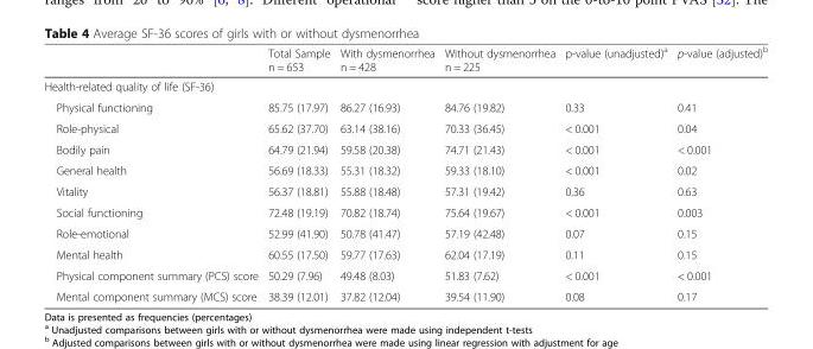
<table><thead><tr><td></td><td>Total Sample n = 653</td><td>With dysmenorrhea n = 428</td><td>Without dysmenorrhea n = 225</td><td>p-value (unadjusted)<sup>a</sup></td><td>p-value (adjusted)<sup>b</sup></td></tr></thead><tbody><tr><td colspan="6">Health-related quality of life (SF-36)</td></tr><tr><td>Physical functioning</td><td>85.75 (17.97)</td><td>86.27 (16.93)</td><td>84.76 (19.82)</td><td>0.33</td><td>0.41</td></tr><tr><td>Role-physical</td><td>65.62 (37.70)</td><td>63.14 (38.16)</td><td>70.33 (36.45)</td><td>&lt; 0.001</td><td>0.04</td></tr><tr><td>Bodily pain</td><td>64.79 (21.94)</td><td>59.58 (20.38)</td><td>74.71 (21.43)</td><td>&lt; 0.001</td><td>&lt; 0.001</td></tr><tr><td>General health</td><td>56.69 (18.33)</td><td>55.31 (18.32)</td><td>59.33 (18.10)</td><td>&lt; 0.001</td><td>0.02</td></tr><tr><td>Vitality</td><td>56.37 (18.81)</td><td>55.88 (18.48)</td><td>57.31 (19.42)</td><td>0.36</td><td>0.63</td></tr><tr><td>Social functioning</td><td>72.48 (19.19)</td><td>70.82 (18.74)</td><td>75.64 (19.67)</td><td>&lt; 0.001</td><td>0.003</td></tr><tr><td>Role-emotional</td><td>52.99 (41.90)</td><td>50.78 (41.47)</td><td>57.19 (42.48)</td><td>0.07</td><td>0.15</td></tr><tr><td>Mental health</td><td>60.55 (17.50)</td><td>59.77 (17.63)</td><td>62.04 (17.19)</td><td>0.11</td><td>0.15</td></tr><tr><td>Physical component summary (PCS) score</td><td>50.29 (7.96)</td><td>49.48 (8.03)</td><td>51.83 (7.62)</td><td>&lt; 0.001</td><td>&lt; 0.001</td></tr><tr><td>Mental component summary (MCS) score</td><td>38.39 (12.01)</td><td>37.82 (12.04)</td><td>39.54 (11.90)</td><td>0.08</td><td>0.17</td></tr></tbody></table>